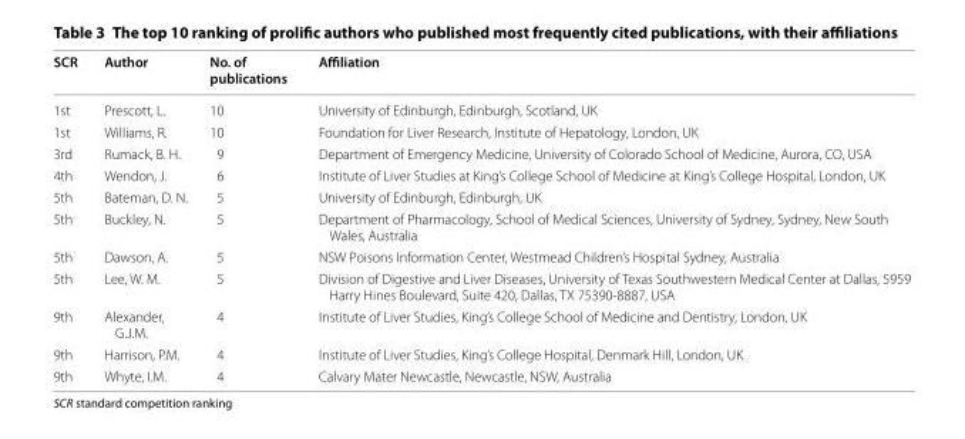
<table><thead><tr><td>SCR</td><td>Author</td><td>No. of publications</td><td>Affiliation</td></tr></thead><tbody><tr><td>1st</td><td>Prescott, L.</td><td>10</td><td>University of Edinburgh, Edinburgh, Scotland, UK</td></tr><tr><td>1st</td><td>Williams, R.</td><td>10</td><td>Foundation for Liver Research, Institute of Hepatology, London, UK</td></tr><tr><td>3rd</td><td>Rumack, B. H.</td><td>9</td><td>Department of Emergency Medicine, University of Colorado School of Medicine, Aurora, CO, USA</td></tr><tr><td>4th</td><td>Wendon, J.</td><td>6</td><td>Institute of Liver Studies at King’s College School of Medicine at King’s College Hospital, London, UK</td></tr><tr><td>5th</td><td>Bateman, D. N.</td><td>5</td><td>University of Edinburgh, Edinburgh, UK</td></tr><tr><td>5th</td><td>Buckley, N.</td><td>5</td><td>Department of Pharmacology, School of Medical Sciences, University of Sydney, Sydney, New South Wales, Australia</td></tr><tr><td>5th</td><td>Dawson, A.</td><td>5</td><td>NSW Poisons Information Center, Westmead Children’s Hospital Sydney, Australia</td></tr><tr><td>5th</td><td>Lee, W. M.</td><td>5</td><td>Division of Digestive and Liver Diseases, University of Texas Southwestern Medical Center at Dallas, 5959 Harry Hines Boulevard, Suite 420, Dallas, TX 75390‑8887, USA</td></tr><tr><td>9th</td><td>Alexander, G.J.M.</td><td>4</td><td>Institute of Liver Studies, King’s College School of Medicine and Dentistry, London, UK</td></tr><tr><td>9th</td><td>Harrison, P.M.</td><td>4</td><td>Institute of Liver Studies, King’s College Hospital, Denmark Hill, London, UK</td></tr><tr><td>9th</td><td>Whyte, I.M.</td><td>4</td><td>Calvary Mater Newcastle, Newcastle, NSW, Australia</td></tr></tbody></table>